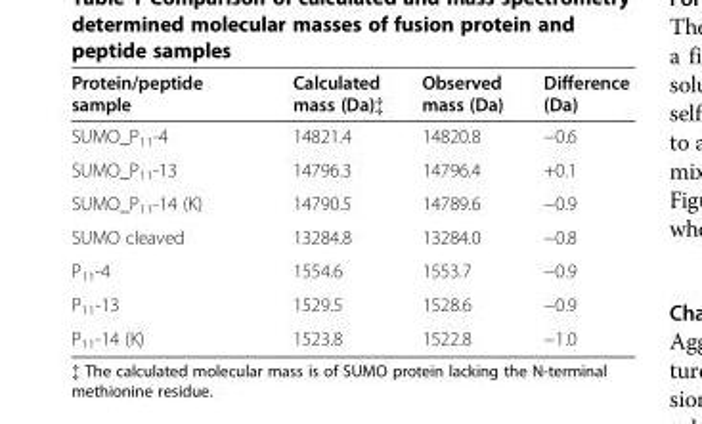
<table><thead><tr><td>Protein/peptide sample</td><td>Calculated mass (Da)‡</td><td>Observed mass (Da)</td><td>Difference (Da)</td></tr></thead><tbody><tr><td>SUMO_P<sub>11</sub>-4</td><td>14821.4</td><td>14820.8</td><td>−0.6</td></tr><tr><td>SUMO_P<sub>11</sub>-13</td><td>14796.3</td><td>14796.4</td><td>+0.1</td></tr><tr><td>SUMO_P<sub>11</sub>-14 (K)</td><td>14790.5</td><td>14789.6</td><td>−0.9</td></tr><tr><td>SUMO cleaved</td><td>13284.8</td><td>13284.0</td><td>−0.8</td></tr><tr><td>P<sub>11</sub>-4</td><td>1554.6</td><td>1553.7</td><td>−0.9</td></tr><tr><td>P<sub>11</sub>-13</td><td>1529.5</td><td>1528.6</td><td>−0.9</td></tr><tr><td>P<sub>11</sub>-14 (K)</td><td>1523.8</td><td>1522.8</td><td>−1.0</td></tr></tbody></table>